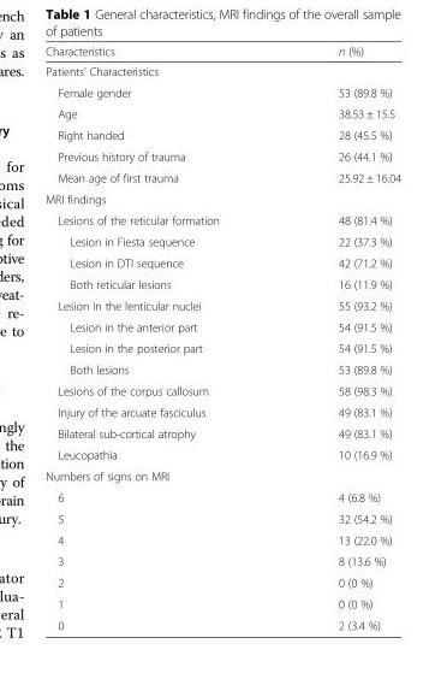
<table><thead><tr><td>Characteristics</td><td>n (%)</td></tr></thead><tbody><tr><td colspan="2">Patients’ Characteristics</td></tr><tr><td>Female gender</td><td>53 (89.8 %)</td></tr><tr><td>Age</td><td>38.53 ± 15.5</td></tr><tr><td>Right handed</td><td>28 (45.5 %)</td></tr><tr><td>Previous history of trauma</td><td>26 (44.1 %)</td></tr><tr><td>Mean age of first trauma</td><td>25.92 ± 16.04</td></tr><tr><td colspan="2">MRI findings</td></tr><tr><td>Lesions of the reticular formation</td><td>48 (81.4 %)</td></tr><tr><td>Lesion in Fiesta sequence</td><td>22 (37.3 %)</td></tr><tr><td>Lesion in DTI sequence</td><td>42 (71.2 %)</td></tr><tr><td>Both reticular lesions</td><td>16 (11.9 %)</td></tr><tr><td>Lesion in the lenticular nuclei</td><td>55 (93.2 %)</td></tr><tr><td>Lesion in the anterior part</td><td>54 (91.5 %)</td></tr><tr><td>Lesion in the posterior part</td><td>54 (91.5 %)</td></tr><tr><td>Both lesions</td><td>53 (89.8 %)</td></tr><tr><td>Lesions of the corpus callosum</td><td>58 (98.3 %)</td></tr><tr><td>Injury of the arcuate fasciculus</td><td>49 (83.1 %)</td></tr><tr><td>Bilateral sub-cortical atrophy</td><td>49 (83.1 %)</td></tr><tr><td>Leucopathia</td><td>10 (16.9 %)</td></tr><tr><td colspan="2">Numbers of signs on MRI</td></tr><tr><td>6</td><td>4 (6.8 %)</td></tr><tr><td>5</td><td>32 (54.2 %)</td></tr><tr><td>4</td><td>13 (22.0 %)</td></tr><tr><td>3</td><td>8 (13.6 %)</td></tr><tr><td>2</td><td>0 (0 %)</td></tr><tr><td>1</td><td>0 (0 %)</td></tr><tr><td>0</td><td>2 (3.4 %)</td></tr></tbody></table>